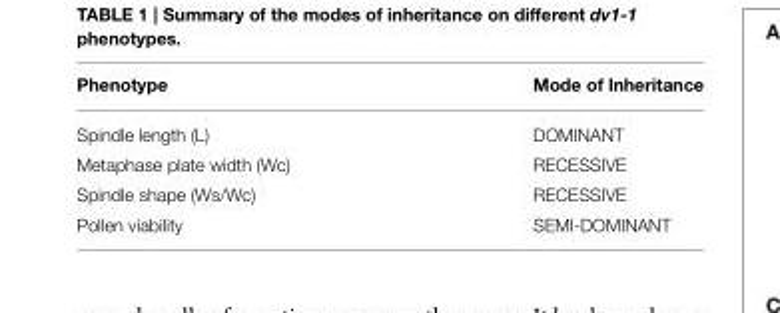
<table><thead><tr><td>Phenotype</td><td>Mode of Inheritance</td></tr></thead><tbody><tr><td>Spindle length (L)</td><td>DOMINANT</td></tr><tr><td>Metaphase plate width (Wc)</td><td>RECESSIVE</td></tr><tr><td>Spindle shape (Ws/Wc)</td><td>RECESSIVE</td></tr><tr><td>Pollen viability</td><td>SEMI-DOMINANT</td></tr></tbody></table>